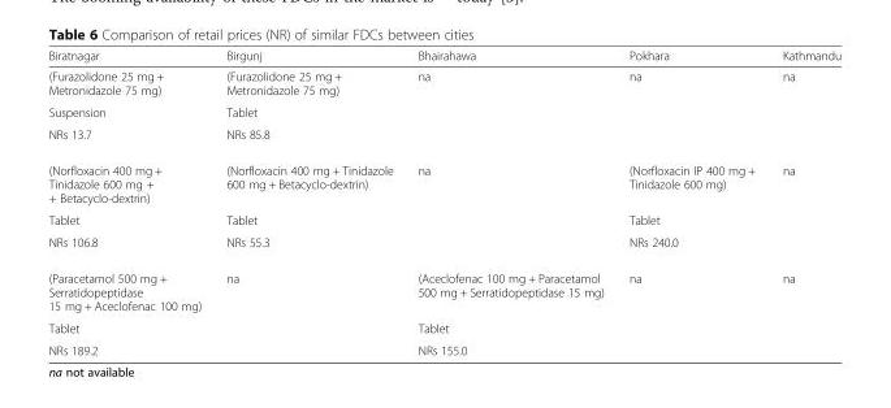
<table><thead><tr><td>Biratnagar</td><td>Birgunj</td><td>Bhairahawa</td><td>Pokhara</td><td>Kathmandu</td></tr></thead><tbody><tr><td>(Furazolidone 25 mg + Metronidazole 75 mg)</td><td>(Furazolidone 25 mg + Metronidazole 75 mg)</td><td>na</td><td>na</td><td>na</td></tr><tr><td>Suspension</td><td>Tablet</td><td></td><td></td><td></td></tr><tr><td>NRs 13.7</td><td>NRs 85.8</td><td></td><td></td><td></td></tr><tr><td>(Norfloxacin 400 mg + Tinidazole 600 mg + + Betacyclo-dextrin)</td><td>(Norfloxacin 400 mg + Tinidazole 600 mg + Betacyclo-dextrin)</td><td>na</td><td>(Norfloxacin IP 400 mg + Tinidazole 600 mg)</td><td>na</td></tr><tr><td>Tablet</td><td>Tablet</td><td></td><td>Tablet</td><td></td></tr><tr><td>NRs 106.8</td><td>NRs 55.3</td><td></td><td>NRs 240.0</td><td></td></tr><tr><td>(Paracetamol 500 mg + Serratidopeptidase 15 mg + Aceclofenac 100 mg)</td><td>na</td><td>(Aceclofenac 100 mg + Paracetamol 500 mg + Serratidopeptidase 15 mg)</td><td>na</td><td>na</td></tr><tr><td>Tablet</td><td></td><td>Tablet</td><td></td><td></td></tr><tr><td>NRs 189.2</td><td></td><td>NRs 155.0</td><td></td><td></td></tr></tbody></table>